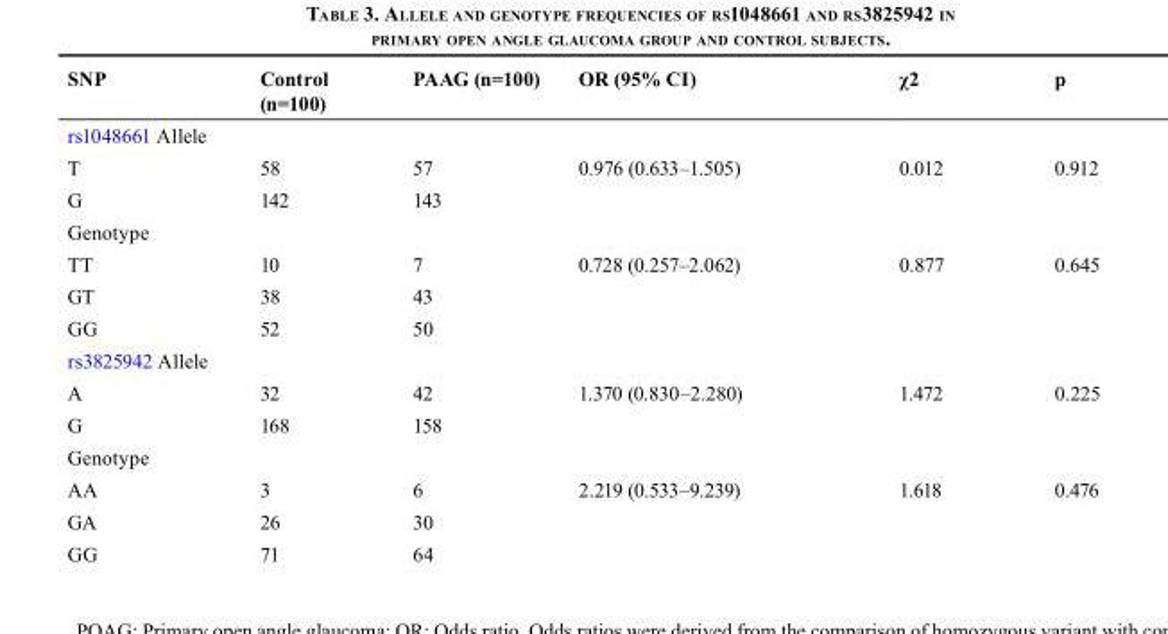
<table><thead><tr><td>SNP</td><td>Control (n=100)</td><td>PAAG (n=100)</td><td>OR (95% CI)</td><td>χ2</td><td>p</td></tr></thead><tbody><tr><td colspan="6">rs1048661 Allele</td></tr><tr><td>T</td><td>58</td><td>57</td><td>0.976 (0.633–1.505)</td><td>0.012</td><td>0.912</td></tr><tr><td>G</td><td>142</td><td>143</td><td></td><td></td><td></td></tr><tr><td colspan="6">Genotype</td></tr><tr><td>TT</td><td>10</td><td>7</td><td>0.728 (0.257–2.062)</td><td>0.877</td><td>0.645</td></tr><tr><td>GT</td><td>38</td><td>43</td><td></td><td></td><td></td></tr><tr><td>GG</td><td>52</td><td>50</td><td></td><td></td><td></td></tr><tr><td colspan="6">rs3825942 Allele</td></tr><tr><td>A</td><td>32</td><td>42</td><td>1.370 (0.830–2.280)</td><td>1.472</td><td>0.225</td></tr><tr><td>G</td><td>168</td><td>158</td><td></td><td></td><td></td></tr><tr><td colspan="6">Genotype</td></tr><tr><td>AA</td><td>3</td><td>6</td><td>2.219 (0.533–9.239)</td><td>1.618</td><td>0.476</td></tr><tr><td>GA</td><td>26</td><td>30</td><td></td><td></td><td></td></tr><tr><td>GG</td><td>71</td><td>64</td><td></td><td></td><td></td></tr></tbody></table>